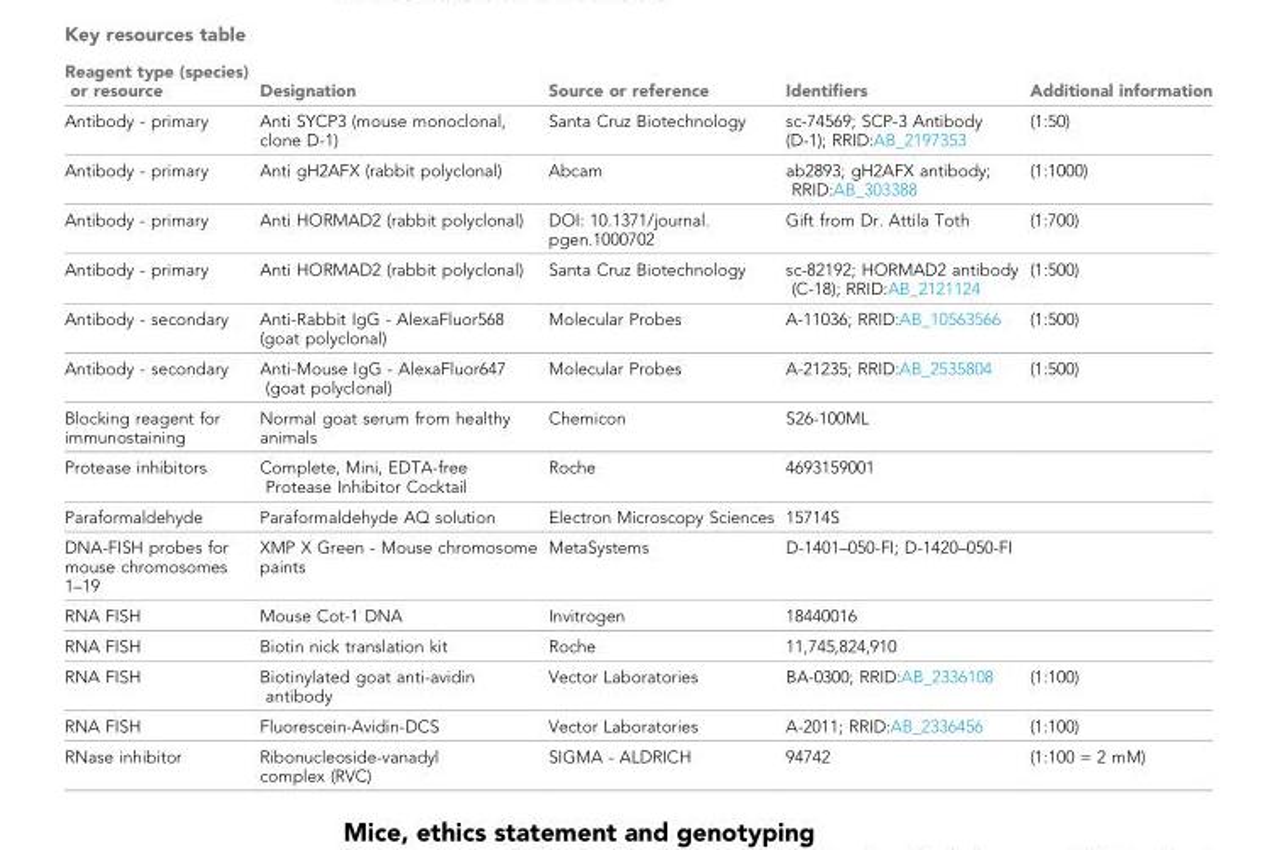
<table><thead><tr><td>Reagent type (species) or resource</td><td>Designation</td><td>Source or reference</td><td>Identifiers</td><td>Additional information</td></tr></thead><tbody><tr><td>Antibody - primary</td><td>Anti SYCP3 (mouse monoclonal, clone D-1)</td><td>Santa Cruz Biotechnology</td><td>sc-74569; SCP-3 Antibody (D-1); RRID:AB_2197353</td><td>(1:50)</td></tr><tr><td>Antibody - primary</td><td>Anti gH2AFX (rabbit polyclonal)</td><td>Abcam</td><td>ab2893; gH2AFX antibody; RRID:AB_303388</td><td>(1:1000)</td></tr><tr><td>Antibody - primary</td><td>Anti HORMAD2 (rabbit polyclonal)</td><td>DOI: 10.1371/journal. pgen.1000702</td><td>Gift from Dr. Attila Toth</td><td>(1:700)</td></tr><tr><td>Antibody - primary</td><td>Anti HORMAD2 (rabbit polyclonal)</td><td>Santa Cruz Biotechnology</td><td>sc-82192; HORMAD2 antibody (C-18); RRID:AB_2121124</td><td>(1:500)</td></tr><tr><td>Antibody - secondary</td><td>Anti-Rabbit IgG - AlexaFluor568 (goat polyclonal)</td><td>Molecular Probes</td><td>A-11036; RRID:AB_10563566</td><td>(1:500)</td></tr><tr><td>Antibody - secondary</td><td>Anti-Mouse IgG - AlexaFluor647 (goat polyclonal)</td><td>Molecular Probes</td><td>A-21235; RRID:AB_2535804</td><td>(1:500)</td></tr><tr><td>Blocking reagent for immunostaining</td><td>Normal goat serum from healthy animals</td><td>Chemicon</td><td>S26-100ML</td><td></td></tr><tr><td>Protease inhibitors</td><td>Complete, Mini, EDTA-free Protease Inhibitor Cocktail</td><td>Roche</td><td>4693159001</td><td></td></tr><tr><td>Paraformaldehyde</td><td>Paraformaldehyde AQ solution</td><td>Electron Microscopy Sciences</td><td>15714S</td><td></td></tr><tr><td>DNA-FISH probes for mouse chromosomes 1–19</td><td>XMP X Green - Mouse chromosome paints</td><td>MetaSystems</td><td>D-1401–050-FI; D-1420–050-FI</td><td></td></tr><tr><td>RNA FISH</td><td>Mouse Cot-1 DNA</td><td>Invitrogen</td><td>18440016</td><td></td></tr><tr><td>RNA FISH</td><td>Biotin nick translation kit</td><td>Roche</td><td>11,745,824,910</td><td></td></tr><tr><td>RNA FISH</td><td>Biotinylated goat anti-avidin antibody</td><td>Vector Laboratories</td><td>BA-0300; RRID:AB_2336108</td><td>(1:100)</td></tr><tr><td>RNA FISH</td><td>Fluorescein-Avidin-DCS</td><td>Vector Laboratories</td><td>A-2011; RRID:AB_2336456</td><td>(1:100)</td></tr><tr><td>RNase inhibitor</td><td>Ribonucleoside-vanadyl complex (RVC)</td><td>SIGMA - ALDRICH</td><td>94742</td><td>(1:100 = 2 mM)</td></tr></tbody></table>